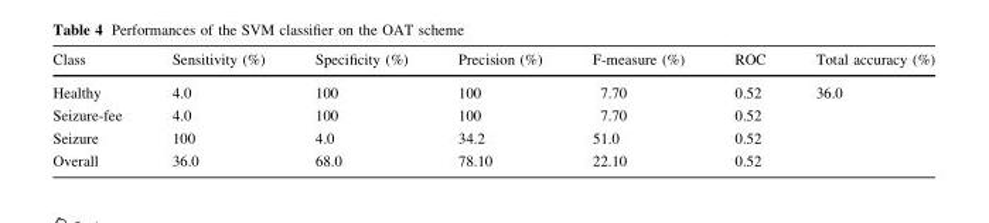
<table><thead><tr><td>Class</td><td>Sensitivity (%)</td><td>Specificity (%)</td><td>Precision (%)</td><td>F-measure (%)</td><td>ROC</td><td>Total accuracy (%)</td></tr></thead><tbody><tr><td>Healthy</td><td>4.0</td><td>100</td><td>100</td><td>7.70</td><td>0.52</td><td rowspan="4">36.0</td></tr><tr><td>Seizure-fee</td><td>4.0</td><td>100</td><td>100</td><td>7.70</td><td>0.52</td></tr><tr><td>Seizure</td><td>100</td><td>4.0</td><td>34.2</td><td>51.0</td><td>0.52</td></tr><tr><td>Overall</td><td>36.0</td><td>68.0</td><td>78.10</td><td>22.10</td><td>0.52</td></tr></tbody></table>